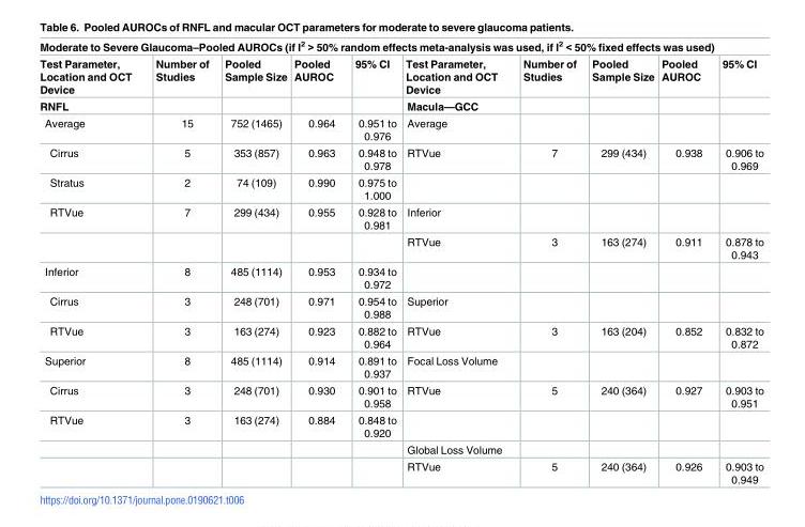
<table><thead><tr><td colspan="10">Moderate to Severe Glaucoma–Pooled AUROCs (if I<sup>2</sup> &gt; 50% random effects meta-analysis was used, if I<sup>2</sup> &lt; 50% fixed effects was used)</td></tr><tr><td>Test Parameter, Location and OCT Device</td><td>Number of Studies</td><td>Pooled Sample Size</td><td>Pooled AUROC</td><td>95% CI</td><td>Test Parameter, Location and OCT Device</td><td>Number of Studies</td><td>Pooled Sample Size</td><td>Pooled AUROC</td><td>95% CI</td></tr></thead><tbody><tr><td>RNFL</td><td></td><td></td><td></td><td></td><td>Macula—GCC</td><td></td><td></td><td></td><td></td></tr><tr><td>Average</td><td>15</td><td>752 (1465)</td><td>0.964</td><td>0.951 to 0.976</td><td>Average</td><td></td><td></td><td></td><td></td></tr><tr><td>Cirrus</td><td>5</td><td>353 (857)</td><td>0.963</td><td>0.948 to 0.978</td><td>RTVue</td><td>7</td><td>299 (434)</td><td>0.938</td><td>0.906 to 0.969</td></tr><tr><td>Stratus</td><td>2</td><td>74 (109)</td><td>0.990</td><td>0.975 to 1.000</td><td></td><td></td><td></td><td></td><td></td></tr><tr><td rowspan="2">RTVue</td><td>7</td><td>299 (434)</td><td>0.955</td><td>0.928 to 0.981</td><td>Inferior</td><td></td><td></td><td></td><td></td></tr><tr><td></td><td></td><td></td><td></td><td>RTVue</td><td>3</td><td>163 (274)</td><td>0.911</td><td>0.878 to 0.943</td></tr><tr><td>Inferior</td><td>8</td><td>485 (1114)</td><td>0.953</td><td>0.934 to 0.972</td><td></td><td></td><td></td><td></td><td></td></tr><tr><td>Cirrus</td><td>3</td><td>248 (701)</td><td>0.971</td><td>0.954 to 0.988</td><td>Superior</td><td></td><td></td><td></td><td></td></tr><tr><td>RTVue</td><td>3</td><td>163 (274)</td><td>0.923</td><td>0.882 to 0.964</td><td>RTVue</td><td>3</td><td>163 (204)</td><td>0.852</td><td>0.832 to 0.872</td></tr><tr><td>Superior</td><td>8</td><td>485 (1114)</td><td>0.914</td><td>0.891 to 0.937</td><td>Focal Loss Volume</td><td></td><td></td><td></td><td></td></tr><tr><td>Cirrus</td><td>3</td><td>248 (701)</td><td>0.930</td><td>0.901 to 0.958</td><td>RTVue</td><td>5</td><td>240 (364)</td><td>0.927</td><td>0.903 to 0.951</td></tr><tr><td rowspan="3">RTVue</td><td>3</td><td>163 (274)</td><td>0.884</td><td>0.848 to 0.920</td><td></td><td></td><td></td><td></td><td></td></tr><tr><td></td><td></td><td></td><td></td><td>Global Loss Volume</td><td></td><td></td><td></td><td></td></tr><tr><td></td><td></td><td></td><td></td><td>RTVue</td><td>5</td><td>240 (364)</td><td>0.926</td><td>0.903 to 0.949</td></tr></tbody></table>